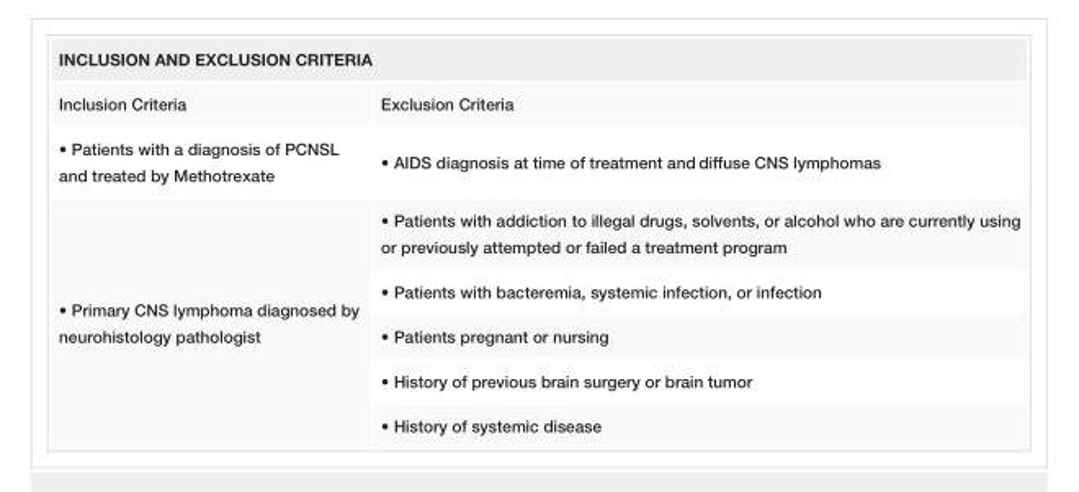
<table><tbody><tr><td colspan="2">INCLUSION AND EXCLUSION CRITERIA</td></tr><tr><td>Inclusion Criteria</td><td>Exclusion Criteria</td></tr><tr><td>• Patients with a diagnosis of PCNSL and treated by Methotrexate</td><td>• AIDS diagnosis at time of treatment and diffuse CNS lymphomas</td></tr><tr><td rowspan="5">• Primary CNS lymphoma diagnosed by neurohistology pathologist</td><td>• Patients with addiction to illegal drugs, solvents, or alcohol who are currently using or previously attempted or failed a treatment program</td></tr><tr><td>• Patients with bacteremia, systemic infection, or infection</td></tr><tr><td>• Patients pregnant or nursing</td></tr><tr><td>• History of previous brain surgery or brain tumor</td></tr><tr><td>• History of systemic disease</td></tr></tbody></table>